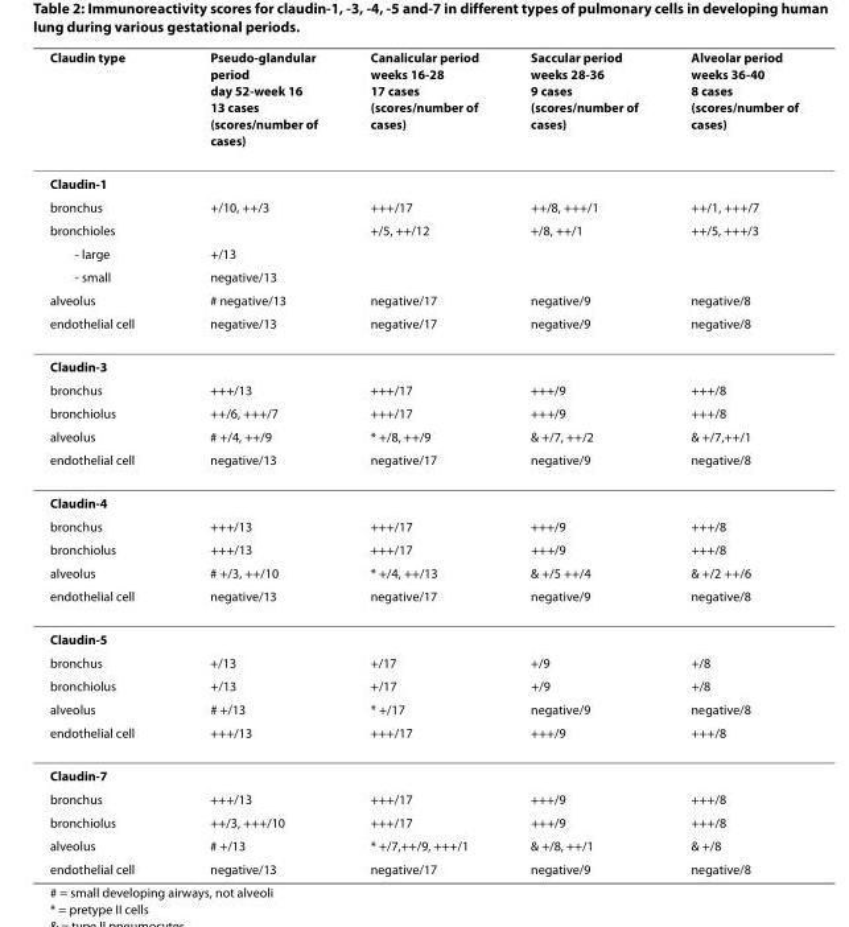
<table><thead><tr><td>Claudin type</td><td>Pseudo-glandular period day 52-week 16 13 cases (scores/number of cases)</td><td>Canalicular period weeks 16-28 17 cases (scores/number of cases)</td><td>Saccular period weeks 28-36 9 cases (scores/number of cases)</td><td>Alveolar period weeks 36-40 8 cases (scores/number of cases)</td></tr></thead><tbody><tr><td colspan="5">Claudin-1</td></tr><tr><td>bronchus</td><td>+/10, ++/3</td><td>+++/17</td><td>++/8, +++/1</td><td>++/1, +++/7</td></tr><tr><td>bronchioles</td><td></td><td>+/5, ++/12</td><td>+/8, ++/1</td><td>++/5, +++/3</td></tr><tr><td>- large</td><td>+/13</td><td></td><td></td><td></td></tr><tr><td>- small</td><td>negative/13</td><td></td><td></td><td></td></tr><tr><td>alveolus</td><td># negative/13</td><td>negative/17</td><td>negative/9</td><td>negative/8</td></tr><tr><td>endothelial cell</td><td>negative/13</td><td>negative/17</td><td>negative/9</td><td>negative/8</td></tr><tr><td colspan="5">Claudin-3</td></tr><tr><td>bronchus</td><td>+++/13</td><td>+++/17</td><td>+++/9</td><td>+++/8</td></tr><tr><td>bronchiolus</td><td>++/6, +++/7</td><td>+++/17</td><td>+++/9</td><td>+++/8</td></tr><tr><td>alveolus</td><td># +/4, ++/9</td><td>* +/8, ++/9</td><td>&amp; +/7, ++/2</td><td>&amp; +/7,++/1</td></tr><tr><td>endothelial cell</td><td>negative/13</td><td>negative/17</td><td>negative/9</td><td>negative/8</td></tr><tr><td colspan="5">Claudin-4</td></tr><tr><td>bronchus</td><td>+++/13</td><td>+++/17</td><td>+++/9</td><td>+++/8</td></tr><tr><td>bronchiolus</td><td>+++/13</td><td>+++/17</td><td>+++/9</td><td>+++/8</td></tr><tr><td>alveolus</td><td># +/3, ++/10</td><td>* +/4, ++/13</td><td>&amp; +/5 ++/4</td><td>&amp; +/2 ++/6</td></tr><tr><td>endothelial cell</td><td>negative/13</td><td>negative/17</td><td>negative/9</td><td>negative/8</td></tr><tr><td colspan="5">Claudin-5</td></tr><tr><td>bronchus</td><td>+/13</td><td>+/17</td><td>+/9</td><td>+/8</td></tr><tr><td>bronchiolus</td><td>+/13</td><td>+/17</td><td>+/9</td><td>+/8</td></tr><tr><td>alveolus</td><td># +/13</td><td>* +/17</td><td>negative/9</td><td>negative/8</td></tr><tr><td>endothelial cell</td><td>+++/13</td><td>+++/17</td><td>+++/9</td><td>+++/8</td></tr><tr><td colspan="5">Claudin-7</td></tr><tr><td>bronchus</td><td>+++/13</td><td>+++/17</td><td>+++/9</td><td>+++/8</td></tr><tr><td>bronchiolus</td><td>++/3, +++/10</td><td>+++/17</td><td>+++/9</td><td>+++/8</td></tr><tr><td>alveolus</td><td># +/13</td><td>* +/7,++/9, +++/1</td><td>&amp; +/8, ++/1</td><td>&amp; +/8</td></tr><tr><td>endothelial cell</td><td>negative/13</td><td>negative/17</td><td>negative/9</td><td>negative/8</td></tr></tbody></table>